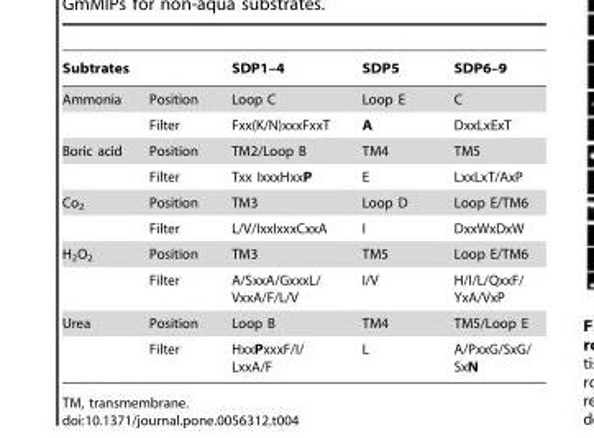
<table><thead><tr><td>Subtrates</td><td></td><td>SDP1–4</td><td>SDP5</td><td>SDP6–9</td></tr></thead><tbody><tr><td rowspan="2">Ammonia</td><td>Position</td><td>Loop C</td><td>Loop E</td><td>C</td></tr><tr><td>Filter</td><td>Fxx(K/N)xxxFxxT</td><td>A</td><td>DxxLxExT</td></tr><tr><td rowspan="2">Boric acid</td><td>Position</td><td>TM2/Loop B</td><td>TM4</td><td>TM5</td></tr><tr><td>Filter</td><td>Txx IxxxHxxP</td><td>E</td><td>LxxLxT/AxP</td></tr><tr><td rowspan="2">Co<sub>2</sub></td><td>Position</td><td>TM3</td><td>Loop D</td><td>Loop E/TM6</td></tr><tr><td>Filter</td><td>L/V/IxxIxxxCxxA</td><td>I</td><td>DxxWxDxW</td></tr><tr><td rowspan="2">H<sub>2</sub>O<sub>2</sub></td><td>Position</td><td>TM3</td><td>TM5</td><td>Loop E/TM6</td></tr><tr><td>Filter</td><td>A/SxxA/GxxxL/ VxxA/F/L/V</td><td>I/V</td><td>H/I/L/QxxF/ YxA/VxP</td></tr><tr><td rowspan="2">Urea</td><td>Position</td><td>Loop B</td><td>TM4</td><td>TM5/Loop E</td></tr><tr><td>Filter</td><td>HxxPxxxF/I/ LxxA/F</td><td>L</td><td>A/PxxG/SxG/ SxN</td></tr></tbody></table>